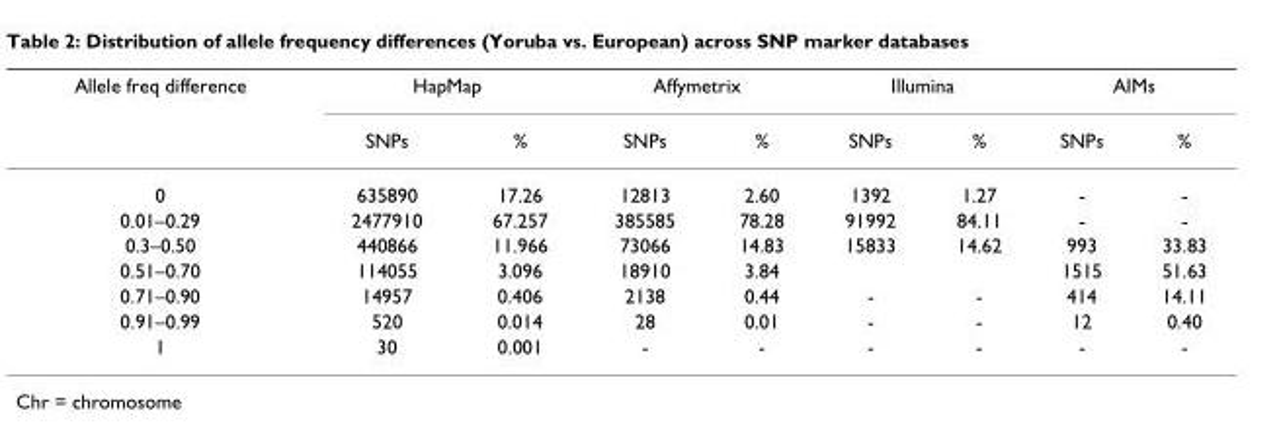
<table><thead><tr><td rowspan="2">Allele freq difference</td><td colspan="2">HapMap</td><td colspan="2">Affymetrix</td><td colspan="2">Illumina</td><td colspan="2">AIMs</td></tr><tr><td>SNPs</td><td>%</td><td>SNPs</td><td>%</td><td>SNPs</td><td>%</td><td>SNPs</td><td>%</td></tr></thead><tbody><tr><td>0</td><td>635890</td><td>17.26</td><td>12813</td><td>2.60</td><td>1392</td><td>1.27</td><td>-</td><td>-</td></tr><tr><td>0.01–0.29</td><td>2477910</td><td>67.257</td><td>385585</td><td>78.28</td><td>91992</td><td>84.11</td><td>-</td><td>-</td></tr><tr><td>0.3–0.50</td><td>440866</td><td>11.966</td><td>73066</td><td>14.83</td><td>15833</td><td>14.62</td><td>993</td><td>33.83</td></tr><tr><td>0.51–0.70</td><td>114055</td><td>3.096</td><td>18910</td><td>3.84</td><td></td><td></td><td>1515</td><td>51.63</td></tr><tr><td>0.71–0.90</td><td>14957</td><td>0.406</td><td>2138</td><td>0.44</td><td>-</td><td>-</td><td>414</td><td>14.11</td></tr><tr><td>0.91–0.99</td><td>520</td><td>0.014</td><td>28</td><td>0.01</td><td>-</td><td>-</td><td>12</td><td>0.40</td></tr><tr><td>1</td><td>30</td><td>0.001</td><td>-</td><td>-</td><td>-</td><td>-</td><td>-</td><td>-</td></tr></tbody></table>